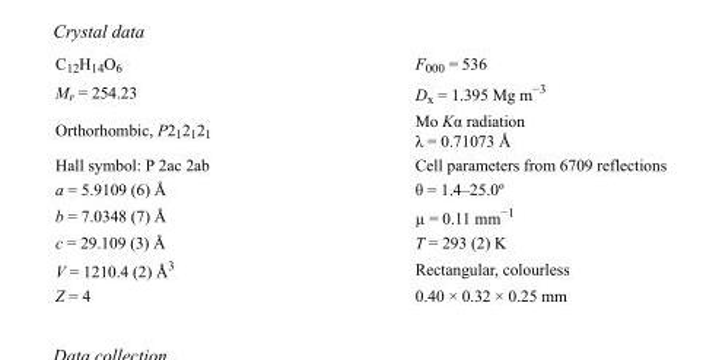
<table><tbody><tr><td>C<sub>12</sub>H<sub>14</sub>O<sub>6</sub></td><td>F<sub>000</sub> = 536</td></tr><tr><td>M<sub>r</sub> = 254.23</td><td>D<sub>x</sub> = 1.395 Mg m<sup>−3</sup></td></tr><tr><td>Orthorhombic, P2<sub>1</sub>2<sub>1</sub>2<sub>1</sub></td><td>Mo Kα radiation λ = 0.71073 Å</td></tr><tr><td>Hall symbol: P 2ac 2ab</td><td>Cell parameters from 6709 reflections</td></tr><tr><td>a = 5.9109 (6) Å</td><td>θ = 1.4–25.0º</td></tr><tr><td>b = 7.0348 (7) Å</td><td>µ = 0.11 mm<sup>−1</sup></td></tr><tr><td>c = 29.109 (3) Å</td><td>T = 293 (2) K</td></tr><tr><td>V = 1210.4 (2) Å<sup>3</sup></td><td>Rectangular, colourless</td></tr><tr><td>Z = 4</td><td>0.40 × 0.32 × 0.25 mm</td></tr></tbody></table>